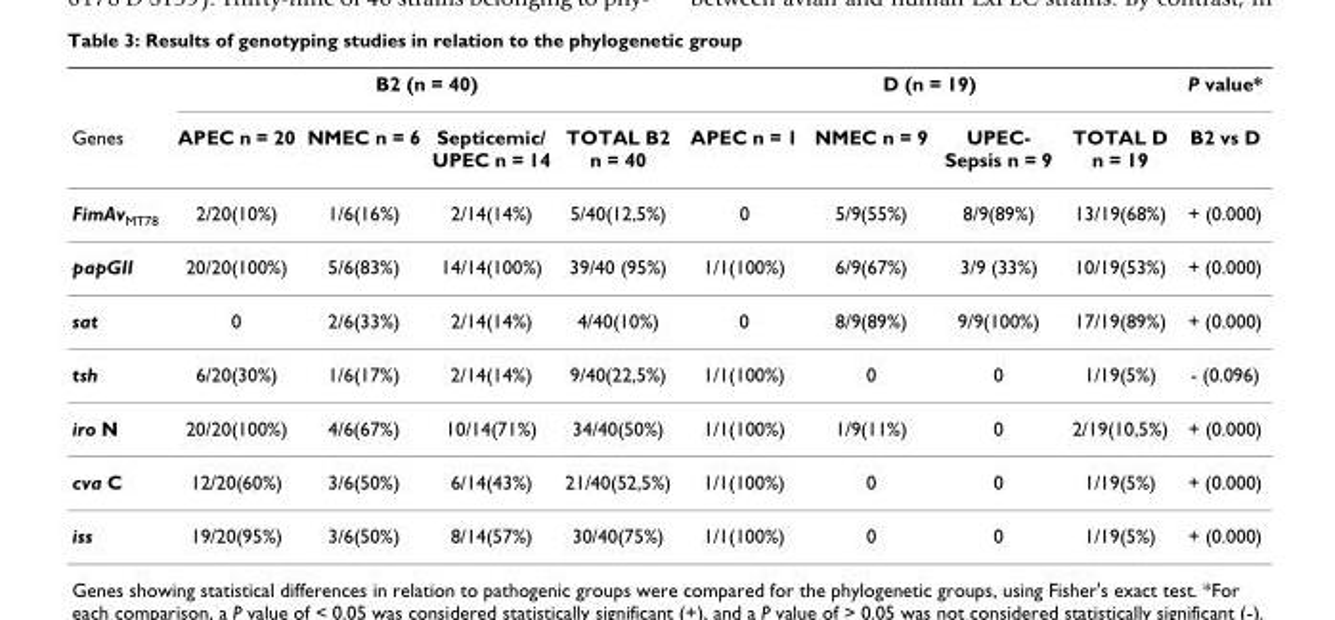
<table><thead><tr><td rowspan="2">Genes</td><td colspan="4">B2 (n = 40)</td><td colspan="4">D (n = 19)</td><td rowspan="2">P value* B2 vs D</td></tr><tr><td>APEC n = 20</td><td>NMEC n = 6</td><td>Septicemic/ UPEC n = 14</td><td>TOTAL B2 n = 40</td><td>APEC n = 1</td><td>NMEC n = 9</td><td>UPEC- Sepsis n = 9</td><td>TOTAL D n = 19</td></tr></thead><tbody><tr><td>FimAv<sub>MT78</sub></td><td>2/20(10%)</td><td>1/6(16%)</td><td>2/14(14%)</td><td>5/40(12,5%)</td><td>0</td><td>5/9(55%)</td><td>8/9(89%)</td><td>13/19(68%)</td><td>+ (0.000)</td></tr><tr><td>papGII</td><td>20/20(100%)</td><td>5/6(83%)</td><td>14/14(100%)</td><td>39/40 (95%)</td><td>1/1(100%)</td><td>6/9(67%)</td><td>3/9 (33%)</td><td>10/19(53%)</td><td>+ (0.000)</td></tr><tr><td>sat</td><td>0</td><td>2/6(33%)</td><td>2/14(14%)</td><td>4/40(10%)</td><td>0</td><td>8/9(89%)</td><td>9/9(100%)</td><td>17/19(89%)</td><td>+ (0.000)</td></tr><tr><td>tsh</td><td>6/20(30%)</td><td>1/6(17%)</td><td>2/14(14%)</td><td>9/40(22,5%)</td><td>1/1(100%)</td><td>0</td><td>0</td><td>1/19(5%)</td><td>- (0.096)</td></tr><tr><td>iro N</td><td>20/20(100%)</td><td>4/6(67%)</td><td>10/14(71%)</td><td>34/40(50%)</td><td>1/1(100%)</td><td>1/9(11%)</td><td>0</td><td>2/19(10,5%)</td><td>+ (0.000)</td></tr><tr><td>cva C</td><td>12/20(60%)</td><td>3/6(50%)</td><td>6/14(43%)</td><td>21/40(52,5%)</td><td>1/1(100%)</td><td>0</td><td>0</td><td>1/19(5%)</td><td>+ (0.000)</td></tr><tr><td>iss</td><td>19/20(95%)</td><td>3/6(50%)</td><td>8/14(57%)</td><td>30/40(75%)</td><td>1/1(100%)</td><td>0</td><td>0</td><td>1/19(5%)</td><td>+ (0.000)</td></tr></tbody></table>